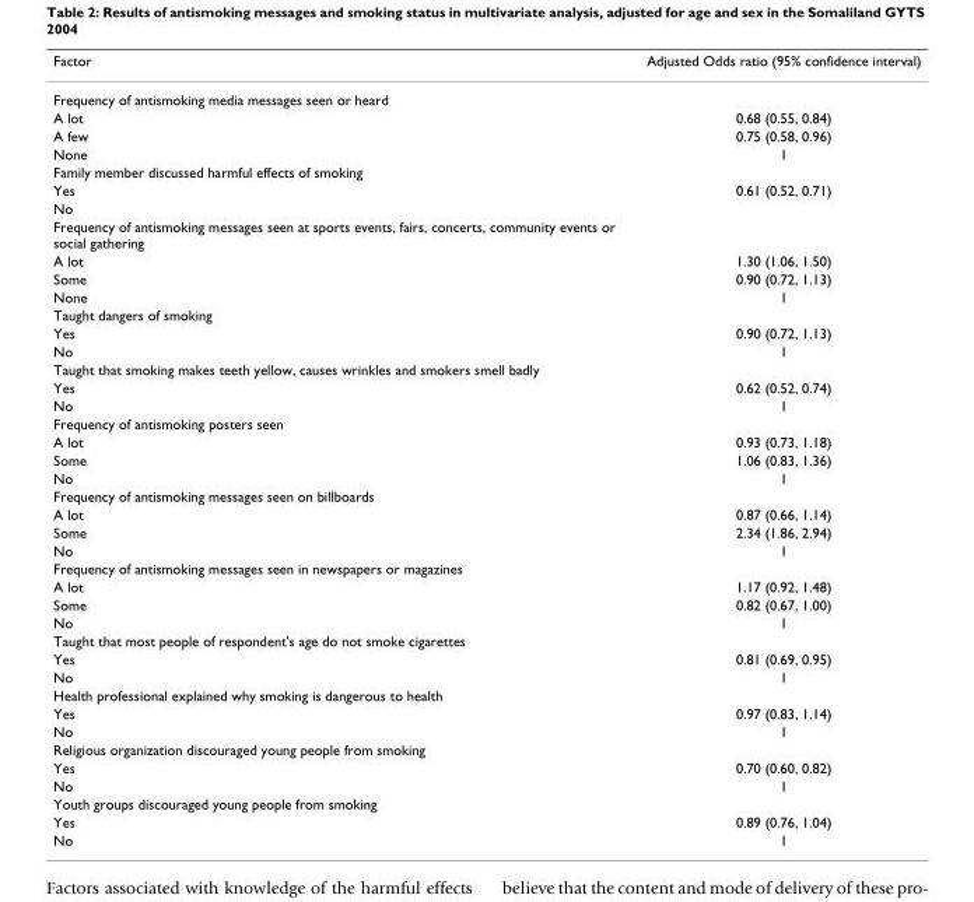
<table><thead><tr><td>Factor</td><td>Adjusted Odds ratio (95% confidence interval)</td></tr></thead><tbody><tr><td colspan="2">Frequency of antismoking media messages seen or heard</td></tr><tr><td>A lot</td><td>0.68 (0.55, 0.84)</td></tr><tr><td>A few</td><td>0.75 (0.58, 0.96)</td></tr><tr><td>None</td><td>1</td></tr><tr><td colspan="2">Family member discussed harmful effects of smoking</td></tr><tr><td>Yes</td><td>0.61 (0.52, 0.71)</td></tr><tr><td colspan="2">No</td></tr><tr><td colspan="2">Frequency of antismoking messages seen at sports events, fairs, concerts, community events or social gathering</td></tr><tr><td>A lot</td><td>1.30 (1.06, 1.50)</td></tr><tr><td>Some</td><td>0.90 (0.72, 1.13)</td></tr><tr><td>None</td><td>1</td></tr><tr><td colspan="2">Taught dangers of smoking</td></tr><tr><td>Yes</td><td>0.90 (0.72, 1.13)</td></tr><tr><td>No</td><td>1</td></tr><tr><td colspan="2">Taught that smoking makes teeth yellow, causes wrinkles and smokers smell badly</td></tr><tr><td>Yes</td><td>0.62 (0.52, 0.74)</td></tr><tr><td>No</td><td>1</td></tr><tr><td colspan="2">Frequency of antismoking posters seen</td></tr><tr><td>A lot</td><td>0.93 (0.73, 1.18)</td></tr><tr><td>Some</td><td>1.06 (0.83, 1.36)</td></tr><tr><td>No</td><td>1</td></tr><tr><td colspan="2">Frequency of antismoking messages seen on billboards</td></tr><tr><td>A lot</td><td>0.87 (0.66, 1.14)</td></tr><tr><td>Some</td><td>2.34 (1.86, 2.94)</td></tr><tr><td>No</td><td>1</td></tr><tr><td colspan="2">Frequency of antismoking messages seen in newspapers or magazines</td></tr><tr><td>A lot</td><td>1.17 (0.92, 1.48)</td></tr><tr><td>Some</td><td>0.82 (0.67, 1.00)</td></tr><tr><td>No</td><td>1</td></tr><tr><td colspan="2">Taught that most people of respondent&#x27;s age do not smoke cigarettes</td></tr><tr><td>Yes</td><td>0.81 (0.69, 0.95)</td></tr><tr><td>No</td><td>1</td></tr><tr><td colspan="2">Health professional explained why smoking is dangerous to health</td></tr><tr><td>Yes</td><td>0.97 (0.83, 1.14)</td></tr><tr><td>No</td><td>1</td></tr><tr><td colspan="2">Religious organization discouraged young people from smoking</td></tr><tr><td>Yes</td><td>0.70 (0.60, 0.82)</td></tr><tr><td>No</td><td>1</td></tr><tr><td colspan="2">Youth groups discouraged young people from smoking</td></tr><tr><td>Yes</td><td>0.89 (0.76, 1.04)</td></tr><tr><td>No</td><td>1</td></tr></tbody></table>